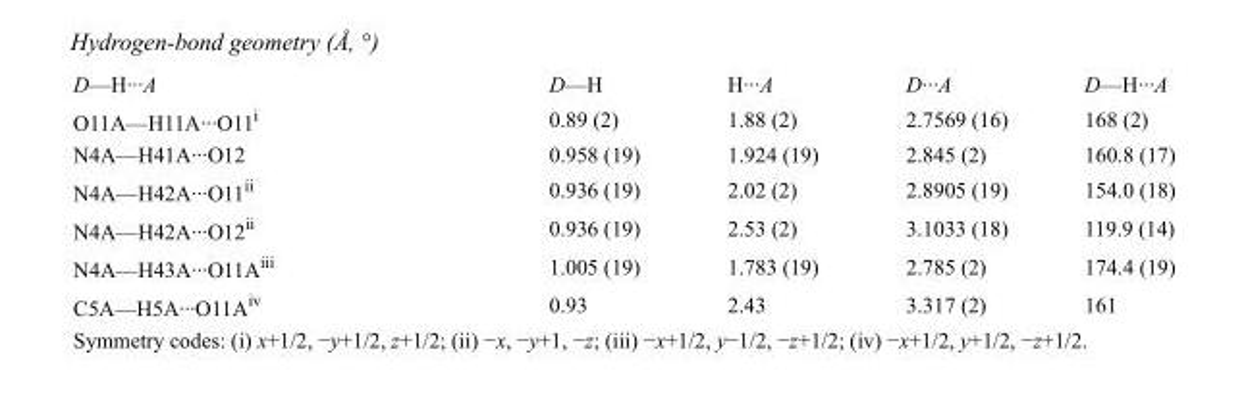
<table><tbody><tr><td>D—H···A</td><td>D—H</td><td>H···A</td><td>D···A</td><td>D—H···A</td></tr><tr><td>O11A—H11A···O11<sup>i</sup></td><td>0.89 (2)</td><td>1.88 (2)</td><td>2.7569 (16)</td><td>168 (2)</td></tr><tr><td>N4A—H41A···O12</td><td>0.958 (19)</td><td>1.924 (19)</td><td>2.845 (2)</td><td>160.8 (17)</td></tr><tr><td>N4A—H42A···O11<sup>ii</sup></td><td>0.936 (19)</td><td>2.02 (2)</td><td>2.8905 (19)</td><td>154.0 (18)</td></tr><tr><td>N4A—H42A···O12<sup>ii</sup></td><td>0.936 (19)</td><td>2.53 (2)</td><td>3.1033 (18)</td><td>119.9 (14)</td></tr><tr><td>N4A—H43A···O11A<sup>iii</sup></td><td>1.005 (19)</td><td>1.783 (19)</td><td>2.785 (2)</td><td>174.4 (19)</td></tr><tr><td>C5A—H5A···O11A<sup>iv</sup></td><td>0.93</td><td>2.43</td><td>3.317 (2)</td><td>161</td></tr></tbody></table>